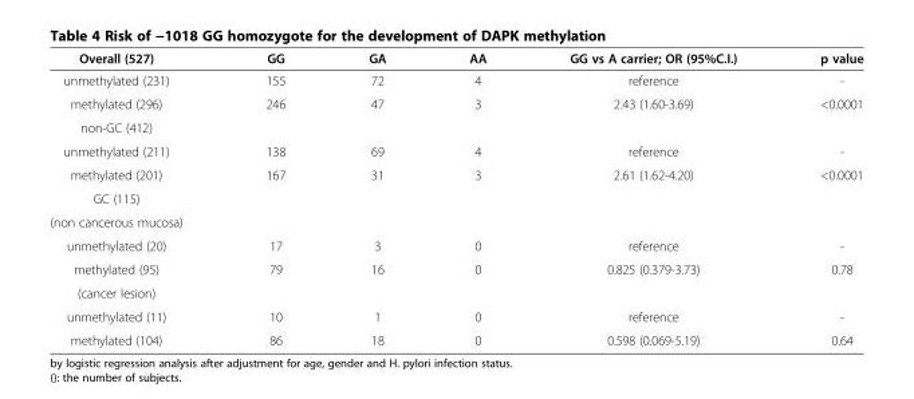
<table><thead><tr><td>Overall (527)</td><td>GG</td><td>GA</td><td>AA</td><td>GG vs A carrier; OR (95%C.I.)</td><td>p value</td></tr></thead><tbody><tr><td>unmethylated (231)</td><td>155</td><td>72</td><td>4</td><td>reference</td><td>-</td></tr><tr><td>methylated (296)</td><td>246</td><td>47</td><td>3</td><td>2.43 (1.60-3.69)</td><td>&lt;0.0001</td></tr><tr><td colspan="6">non-GC (412)</td></tr><tr><td>unmethylated (211)</td><td>138</td><td>69</td><td>4</td><td>reference</td><td>-</td></tr><tr><td>methylated (201)</td><td>167</td><td>31</td><td>3</td><td>2.61 (1.62-4.20)</td><td>&lt;0.0001</td></tr><tr><td colspan="6">GC (115)</td></tr><tr><td colspan="6">(non cancerous mucosa)</td></tr><tr><td>unmethylated (20)</td><td>17</td><td>3</td><td>0</td><td>reference</td><td>-</td></tr><tr><td>methylated (95)</td><td>79</td><td>16</td><td>0</td><td>0.825 (0.379-3.73)</td><td>0.78</td></tr><tr><td colspan="6">(cancer lesion)</td></tr><tr><td>unmethylated (11)</td><td>10</td><td>1</td><td>0</td><td>reference</td><td>-</td></tr><tr><td>methylated (104)</td><td>86</td><td>18</td><td>0</td><td>0.598 (0.069-5.19)</td><td>0.64</td></tr></tbody></table>